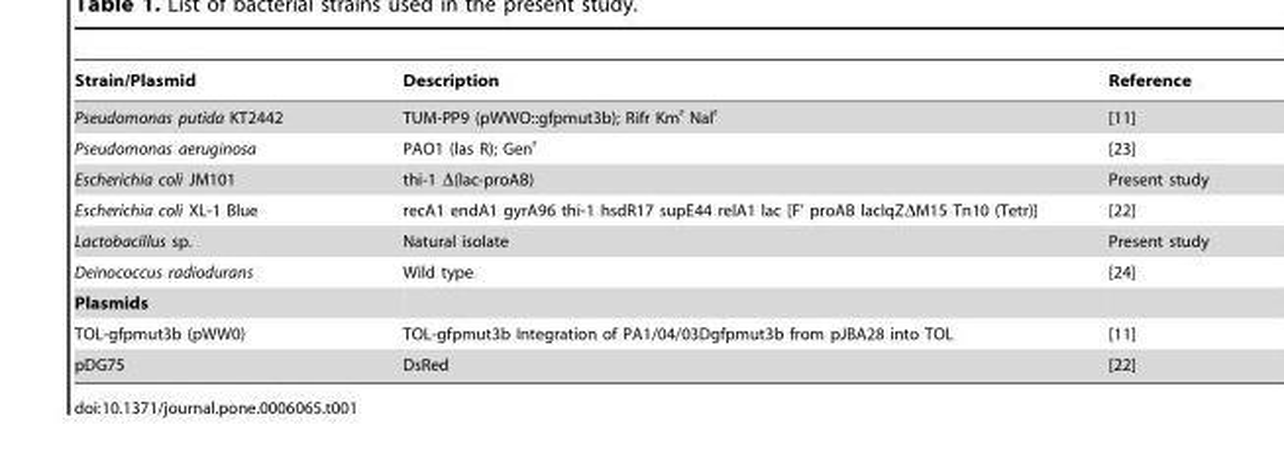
<table><thead><tr><td>Strain/Plasmid</td><td>Description</td><td>Reference</td></tr></thead><tbody><tr><td>Pseudomonas putida KT2442</td><td>TUM-PP9 (pWWO::gfpmut3b); Rifr Km<sup>r</sup> Nal<sup>r</sup></td><td>[11]</td></tr><tr><td>Pseudomonas aeruginosa</td><td>PAO1 (las R); Gen<sup>r</sup></td><td>[23]</td></tr><tr><td>Escherichia coli JM101</td><td>thi-1 Δ(lac-proAB)</td><td>Present study</td></tr><tr><td>Escherichia coli XL-1 Blue</td><td>recA1 endA1 gyrA96 thi-1 hsdR17 supE44 relA1 lac [F’ proAB lacIqZΔM15 Tn10 (Tetr)]</td><td>[22]</td></tr><tr><td>Lactobacillus sp.</td><td>Natural isolate</td><td>Present study</td></tr><tr><td>Deinococcus radiodurans</td><td>Wild type</td><td>[24]</td></tr><tr><td colspan="3">Plasmids</td></tr><tr><td>TOL-gfpmut3b (pWW0)</td><td>TOL-gfpmut3b Integration of PA1/04/03Dgfpmut3b from pJBA28 into TOL</td><td>[11]</td></tr><tr><td>pDG75</td><td>DsRed</td><td>[22]</td></tr></tbody></table>